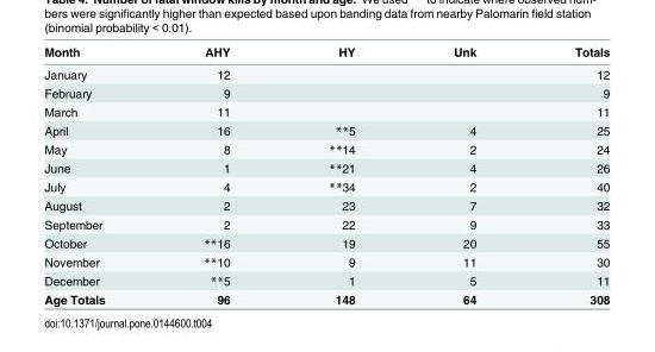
<table><thead><tr><td>Month</td><td>AHY</td><td>HY</td><td>Unk</td><td>Totals</td></tr></thead><tbody><tr><td>January</td><td>12</td><td></td><td></td><td>12</td></tr><tr><td>February</td><td>9</td><td></td><td></td><td>9</td></tr><tr><td>March</td><td>11</td><td></td><td></td><td>11</td></tr><tr><td>April</td><td>16</td><td>**5</td><td>4</td><td>25</td></tr><tr><td>May</td><td>8</td><td>**14</td><td>2</td><td>24</td></tr><tr><td>June</td><td>1</td><td>**21</td><td>4</td><td>26</td></tr><tr><td>July</td><td>4</td><td>**34</td><td>2</td><td>40</td></tr><tr><td>August</td><td>2</td><td>23</td><td>7</td><td>32</td></tr><tr><td>September</td><td>2</td><td>22</td><td>9</td><td>33</td></tr><tr><td>October</td><td>**16</td><td>19</td><td>20</td><td>55</td></tr><tr><td>November</td><td>**10</td><td>9</td><td>11</td><td>30</td></tr><tr><td>December</td><td>**5</td><td>1</td><td>5</td><td>11</td></tr><tr><td>Age Totals</td><td>96</td><td>148</td><td>64</td><td>308</td></tr></tbody></table>